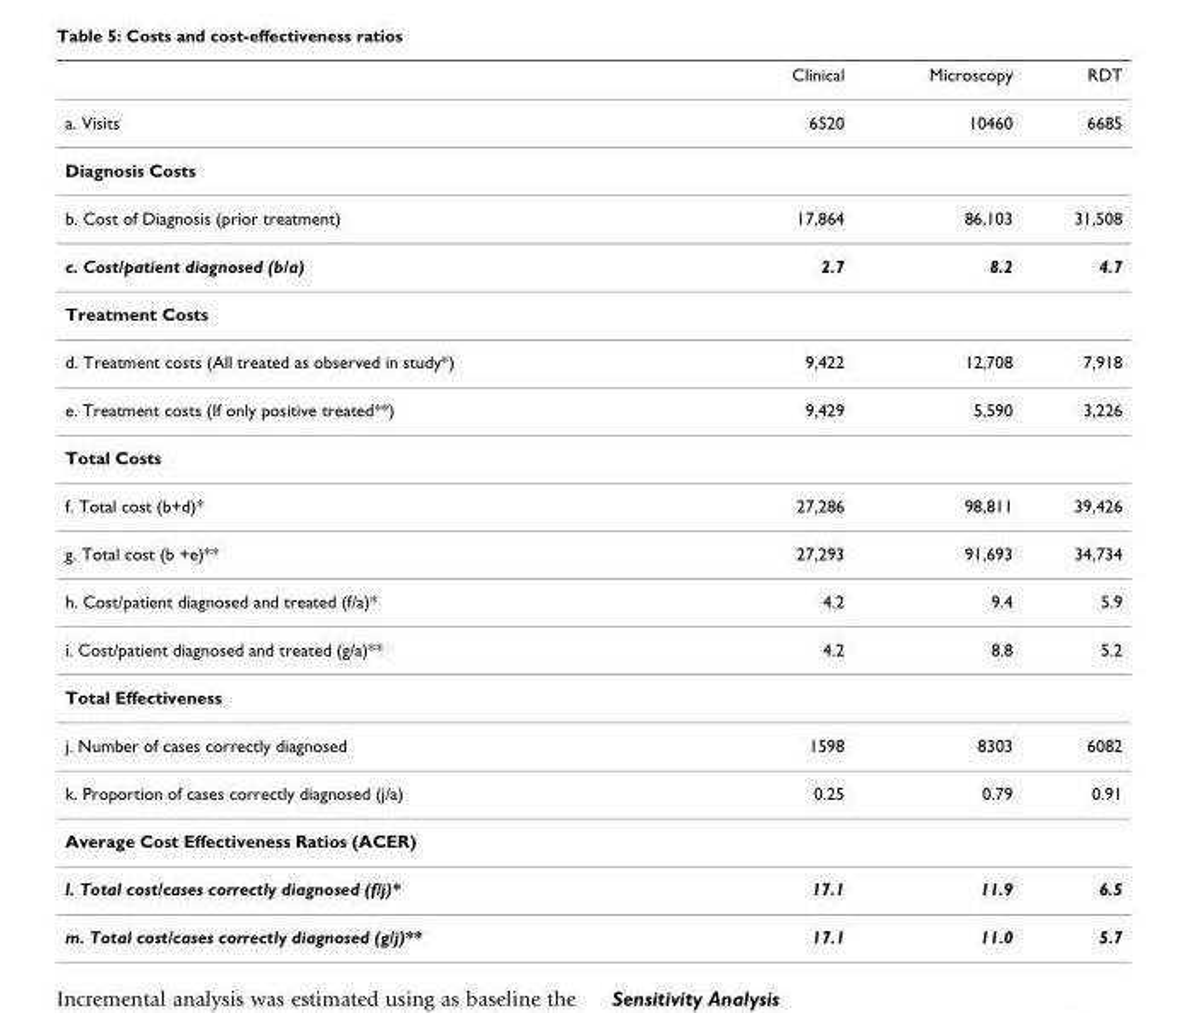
<table><thead><tr><td></td><td>Clinical</td><td>Microscopy</td><td>RDT</td></tr></thead><tbody><tr><td>a. Visits</td><td>6520</td><td>10460</td><td>6685</td></tr><tr><td colspan="4">Diagnosis Costs</td></tr><tr><td>b. Cost of Diagnosis (prior treatment)</td><td>17,864</td><td>86,103</td><td>31,508</td></tr><tr><td>c. Cost/patient diagnosed (b/a)</td><td>2.7</td><td>8.2</td><td>4.7</td></tr><tr><td colspan="4">Treatment Costs</td></tr><tr><td>d. Treatment costs (All treated as observed in study*)</td><td>9,422</td><td>12,708</td><td>7,918</td></tr><tr><td>e. Treatment costs (If only positive treated**)</td><td>9,429</td><td>5,590</td><td>3,226</td></tr><tr><td colspan="4">Total Costs</td></tr><tr><td>f. Total cost (b+d)*</td><td>27,286</td><td>98,811</td><td>39,426</td></tr><tr><td>g. Total cost (b +e)**</td><td>27,293</td><td>91,693</td><td>34,734</td></tr><tr><td>h. Cost/patient diagnosed and treated (f/a)*</td><td>4.2</td><td>9.4</td><td>5.9</td></tr><tr><td>i. Cost/patient diagnosed and treated (g/a)**</td><td>4.2</td><td>8.8</td><td>5.2</td></tr><tr><td colspan="4">Total Effectiveness</td></tr><tr><td>j. Number of cases correctly diagnosed</td><td>1598</td><td>8303</td><td>6082</td></tr><tr><td>k. Proportion of cases correctly diagnosed (j/a)</td><td>0.25</td><td>0.79</td><td>0.91</td></tr><tr><td colspan="4">Average Cost Effectiveness Ratios (ACER)</td></tr><tr><td>l. Total cost/cases correctly diagnosed (f/j)*</td><td>17.1</td><td>11.9</td><td>6.5</td></tr><tr><td>m. Total cost/cases correctly diagnosed (g/j)**</td><td>17.1</td><td>11.0</td><td>5.7</td></tr></tbody></table>